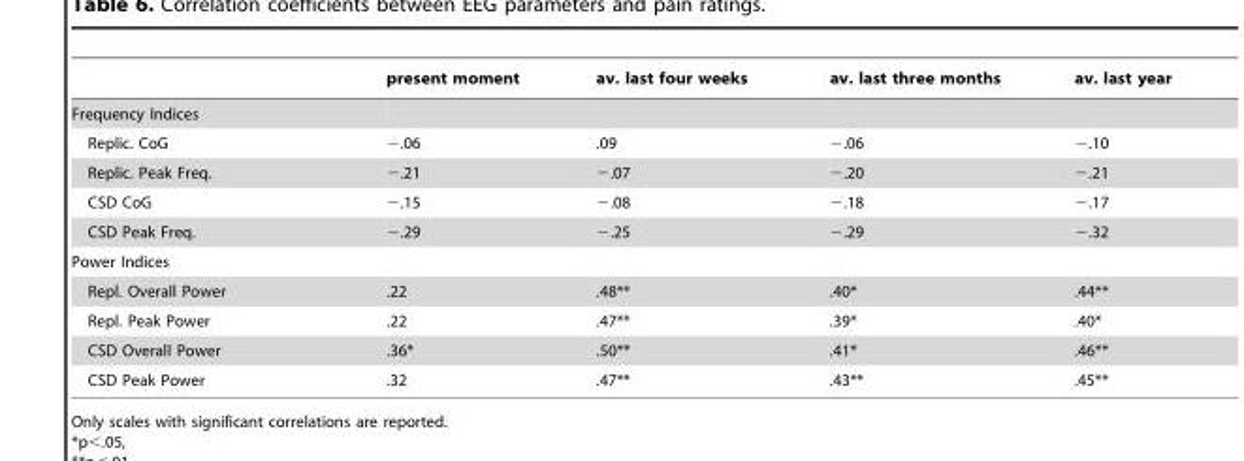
<table><thead><tr><td></td><td>present moment</td><td>av. last four weeks</td><td>av. last three months</td><td>av. last year</td></tr></thead><tbody><tr><td colspan="5">Frequency Indices</td></tr><tr><td>Replic. CoG</td><td>−.06</td><td>.09</td><td>−.06</td><td>−.10</td></tr><tr><td>Replic. Peak Freq.</td><td>−.21</td><td>−.07</td><td>−.20</td><td>−.21</td></tr><tr><td>CSD CoG</td><td>−.15</td><td>−.08</td><td>−.18</td><td>−.17</td></tr><tr><td>CSD Peak Freq.</td><td>−.29</td><td>−.25</td><td>−.29</td><td>−.32</td></tr><tr><td colspan="5">Power Indices</td></tr><tr><td>Repl. Overall Power</td><td>.22</td><td>.48**</td><td>.40*</td><td>.44**</td></tr><tr><td>Repl. Peak Power</td><td>.22</td><td>.47**</td><td>.39*</td><td>.40*</td></tr><tr><td>CSD Overall Power</td><td>.36*</td><td>.50**</td><td>.41*</td><td>.46**</td></tr><tr><td>CSD Peak Power</td><td>.32</td><td>.47**</td><td>.43**</td><td>.45**</td></tr></tbody></table>